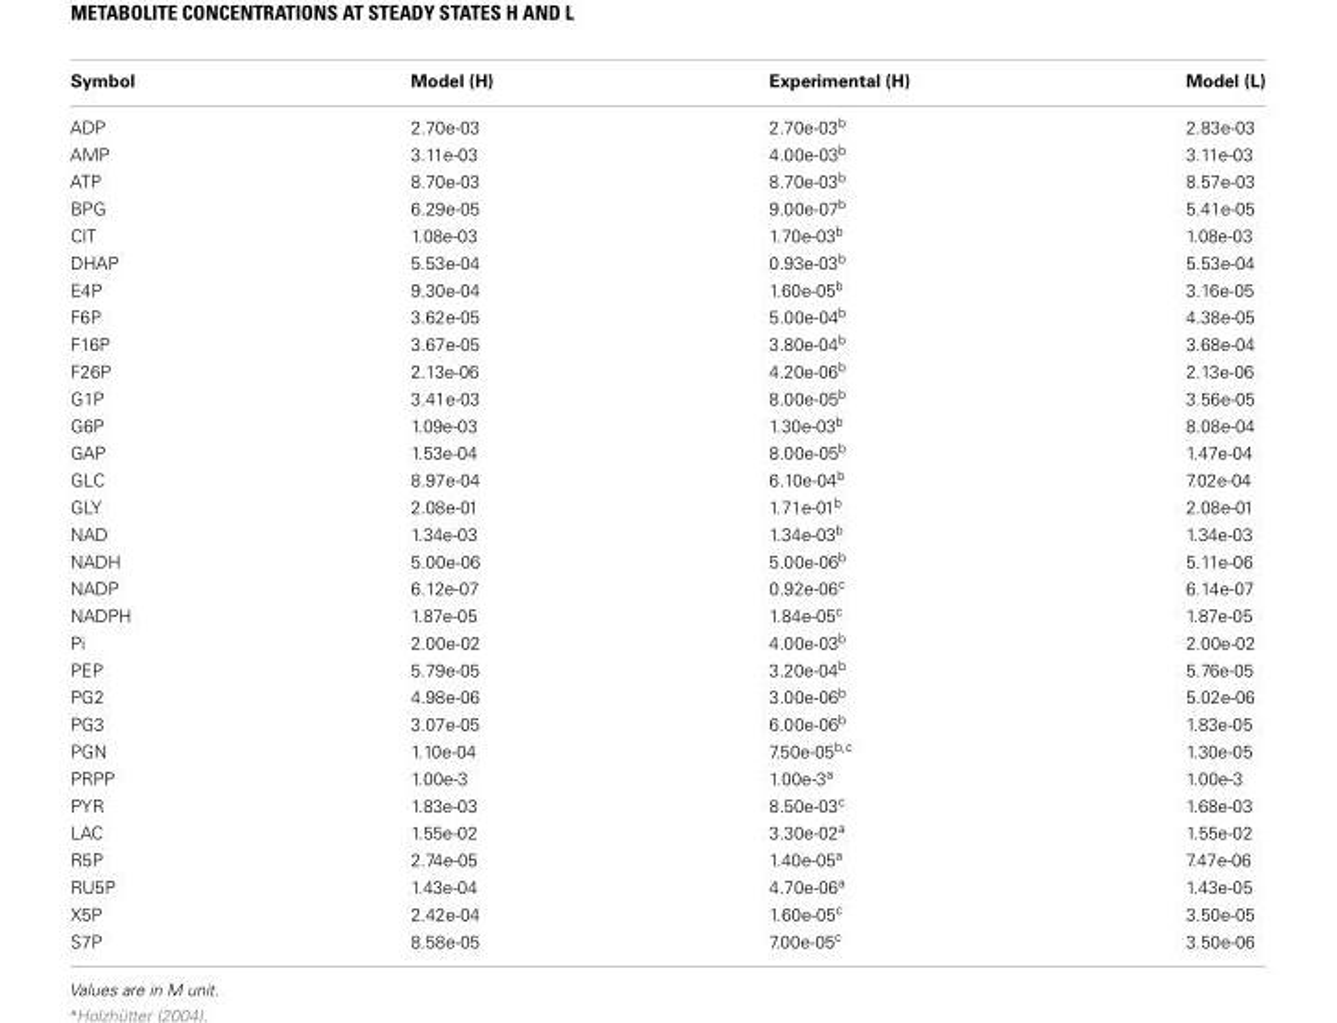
<table><thead><tr><td>Symbol</td><td>Model (H)</td><td>Experimental (H)</td><td>Model (L)</td></tr></thead><tbody><tr><td>ADP</td><td>2.70e-03</td><td>2.70e-03<sup>b</sup></td><td>2.83e-03</td></tr><tr><td>AMP</td><td>3.11e-03</td><td>4.00e-03<sup>b</sup></td><td>3.11e-03</td></tr><tr><td>ATP</td><td>8.70e-03</td><td>8.70e-03<sup>b</sup></td><td>8.57e-03</td></tr><tr><td>BPG</td><td>6.29e-05</td><td>9.00e-07<sup>b</sup></td><td>5.41e-05</td></tr><tr><td>CIT</td><td>1.08e-03</td><td>1.70e-03<sup>b</sup></td><td>1.08e-03</td></tr><tr><td>DHAP</td><td>5.53e-04</td><td>0.93e-03<sup>b</sup></td><td>5.53e-04</td></tr><tr><td>E4P</td><td>9.30e-04</td><td>1.60e-05<sup>b</sup></td><td>3.16e-05</td></tr><tr><td>F6P</td><td>3.62e-05</td><td>5.00e-04<sup>b</sup></td><td>4.38e-05</td></tr><tr><td>F16P</td><td>3.67e-05</td><td>3.80e-04<sup>b</sup></td><td>3.68e-04</td></tr><tr><td>F26P</td><td>2.13e-06</td><td>4.20e-06<sup>b</sup></td><td>2.13e-06</td></tr><tr><td>G1P</td><td>3.41e-03</td><td>8.00e-05<sup>b</sup></td><td>3.56e-05</td></tr><tr><td>G6P</td><td>1.09e-03</td><td>1.30e-03<sup>b</sup></td><td>8.08e-04</td></tr><tr><td>GAP</td><td>1.53e-04</td><td>8.00e-05<sup>b</sup></td><td>1.47e-04</td></tr><tr><td>GLC</td><td>8.97e-04</td><td>6.10e-04<sup>b</sup></td><td>7.02e-04</td></tr><tr><td>GLY</td><td>2.08e-01</td><td>1.71e-01<sup>b</sup></td><td>2.08e-01</td></tr><tr><td>NAD</td><td>1.34e-03</td><td>1.34e-03<sup>b</sup></td><td>1.34e-03</td></tr><tr><td>NADH</td><td>5.00e-06</td><td>5.00e-06<sup>b</sup></td><td>5.11e-06</td></tr><tr><td>NADP</td><td>6.12e-07</td><td>0.92e-06<sup>c</sup></td><td>6.14e-07</td></tr><tr><td>NADPH</td><td>1.87e-05</td><td>1.84e-05<sup>c</sup></td><td>1.87e-05</td></tr><tr><td>Pi</td><td>2.00e-02</td><td>4.00e-03<sup>b</sup></td><td>2.00e-02</td></tr><tr><td>PEP</td><td>5.79e-05</td><td>3.20e-04<sup>b</sup></td><td>5.76e-05</td></tr><tr><td>PG2</td><td>4.98e-06</td><td>3.00e-06<sup>b</sup></td><td>5.02e-06</td></tr><tr><td>PG3</td><td>3.07e-05</td><td>6.00e-06<sup>b</sup></td><td>1.83e-05</td></tr><tr><td>PGN</td><td>1.10e-04</td><td>7.50e-05<sup>b,c</sup></td><td>1.30e-05</td></tr><tr><td>PRPP</td><td>1.00e-3</td><td>1.00e-3<sup>a</sup></td><td>1.00e-3</td></tr><tr><td>PYR</td><td>1.83e-03</td><td>8.50e-03<sup>c</sup></td><td>1.68e-03</td></tr><tr><td>LAC</td><td>1.55e-02</td><td>3.30e-02<sup>a</sup></td><td>1.55e-02</td></tr><tr><td>R5P</td><td>2.74e-05</td><td>1.40e-05<sup>a</sup></td><td>7.47e-06</td></tr><tr><td>RU5P</td><td>1.43e-04</td><td>4.70e-06<sup>a</sup></td><td>1.43e-05</td></tr><tr><td>X5P</td><td>2.42e-04</td><td>1.60e-05<sup>c</sup></td><td>3.50e-05</td></tr><tr><td>S7P</td><td>8.58e-05</td><td>7.00e-05<sup>c</sup></td><td>3.50e-06</td></tr></tbody></table>